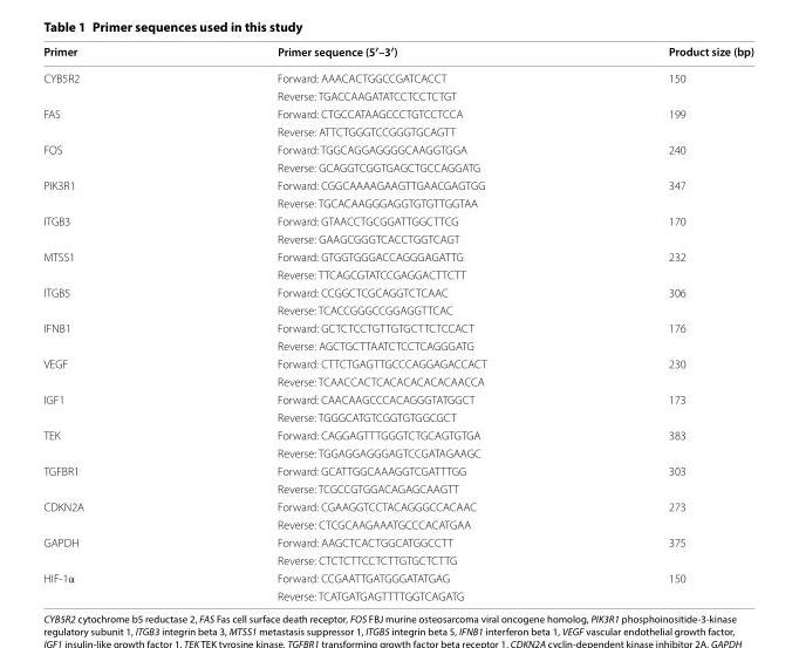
<table><thead><tr><td>Primer</td><td>Primer sequence (5′–3′)</td><td>Product size (bp)</td></tr></thead><tbody><tr><td rowspan="2">CYB5R2</td><td>Forward: AAACACTGGCCGATCACCT</td><td rowspan="2">150</td></tr><tr><td>Reverse: TGACCAAGATATCCTCCTCTGT</td></tr><tr><td rowspan="2">FAS</td><td>Forward: CTGCCATAAGCCCTGTCCTCCA</td><td rowspan="2">199</td></tr><tr><td>Reverse: ATTCTGGGTCCGGGTGCAGTT</td></tr><tr><td rowspan="2">FOS</td><td>Forward: TGGCAGGAGGGGCAAGGTGGA</td><td rowspan="2">240</td></tr><tr><td>Reverse: GCAGGTCGGTGAGCTGCCAGGATG</td></tr><tr><td rowspan="2">PIK3R1</td><td>Forward: CGGCAAAAGAAGTTGAACGAGTGG</td><td rowspan="2">347</td></tr><tr><td>Reverse: TGCACAAGGGAGGTGTGTTGGTAA</td></tr><tr><td rowspan="2">ITGB3</td><td>Forward: GTAACCTGCGGATTGGCTTCG</td><td rowspan="2">170</td></tr><tr><td>Reverse: GAAGCGGGTCACCTGGTCAGT</td></tr><tr><td rowspan="2">MTSS1</td><td>Forward: GTGGTGGGACCAGGGAGATTG</td><td rowspan="2">232</td></tr><tr><td>Reverse: TTCAGCGTATCCGAGGACTTCTT</td></tr><tr><td rowspan="2">ITGB5</td><td>Forward: CCGGCTCGCAGGTCTCAAC</td><td rowspan="2">306</td></tr><tr><td>Reverse: TCACCGGGCCGGAGGTTCAC</td></tr><tr><td rowspan="2">IFNB1</td><td>Forward: GCTCTCCTGTTGTGCTTCTCCACT</td><td rowspan="2">176</td></tr><tr><td>Reverse: AGCTGCTTAATCTCCTCAGGGATG</td></tr><tr><td rowspan="2">VEGF</td><td>Forward: CTTCTGAGTTGCCCAGGAGACCACT</td><td rowspan="2">230</td></tr><tr><td>Reverse: TCAACCACTCACACACACACAACCA</td></tr><tr><td rowspan="2">IGF1</td><td>Forward: CAACAAGCCCACAGGGTATGGCT</td><td rowspan="2">173</td></tr><tr><td>Reverse: TGGGCATGTCGGTGTGGCGCT</td></tr><tr><td rowspan="2">TEK</td><td>Forward: CAGGAGTTTGGGTCTGCAGTGTGA</td><td rowspan="2">383</td></tr><tr><td>Reverse: TGGAGGAGGGAGTCCGATAGAAGC</td></tr><tr><td rowspan="2">TGFBR1</td><td>Forward: GCATTGGCAAAGGTCGATTTGG</td><td rowspan="2">303</td></tr><tr><td>Reverse: TCGCCGTGGACAGAGCAAGTT</td></tr><tr><td rowspan="2">CDKN2A</td><td>Forward: CGAAGGTCCTACAGGGCCACAAC</td><td rowspan="2">273</td></tr><tr><td>Reverse: CTCGCAAGAAATGCCCACATGAA</td></tr><tr><td rowspan="2">GAPDH</td><td>Forward: AAGCTCACTGGCATGGCCTT</td><td rowspan="2">375</td></tr><tr><td>Reverse: CTCTCTTCCTCTTGTGCTCTTG</td></tr><tr><td rowspan="2">HIF-1α</td><td>Forward: CCGAATTGATGGGATATGAG</td><td rowspan="2">150</td></tr><tr><td>Reverse: TCATGATGAGTTTTGGTCAGATG</td></tr></tbody></table>